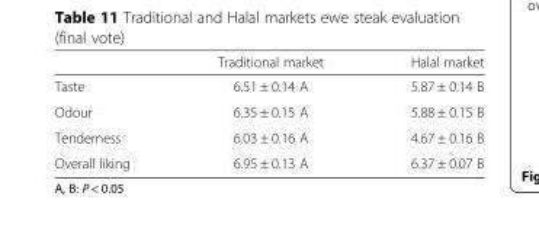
<table><thead><tr><td></td><td>Traditional market</td><td>Halal market</td></tr></thead><tbody><tr><td>Taste</td><td>6.51 ± 0.14 A</td><td>5.87 ± 0.14 B</td></tr><tr><td>Odour</td><td>6.35 ± 0.15 A</td><td>5.88 ± 0.15 B</td></tr><tr><td>Tenderness</td><td>6.03 ± 0.16 A</td><td>4.67 ± 0.16 B</td></tr><tr><td>Overall liking</td><td>6.95 ± 0.13 A</td><td>6.37 ± 0.07 B</td></tr></tbody></table>